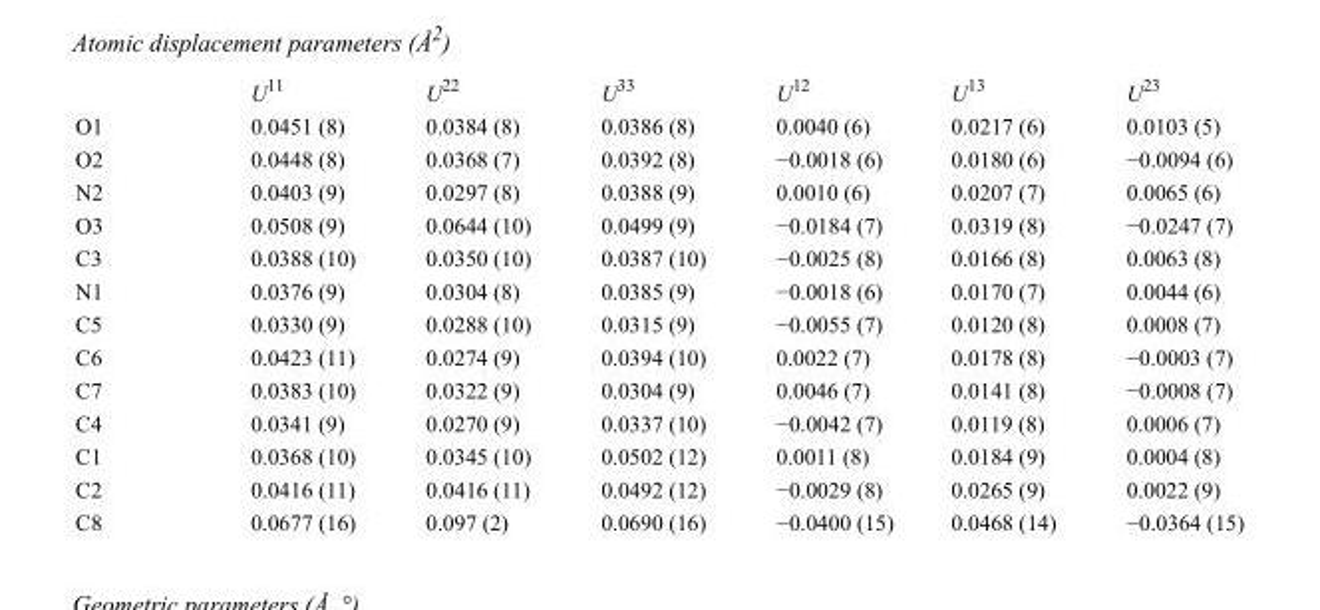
<table><thead><tr><td></td><td>U<sup>11</sup></td><td>U<sup>22</sup></td><td>U<sup>33</sup></td><td>U<sup>12</sup></td><td>U<sup>13</sup></td><td>U<sup>23</sup></td></tr></thead><tbody><tr><td>O1</td><td>0.0451 (8)</td><td>0.0384 (8)</td><td>0.0386 (8)</td><td>0.0040 (6)</td><td>0.0217 (6)</td><td>0.0103 (5)</td></tr><tr><td>O2</td><td>0.0448 (8)</td><td>0.0368 (7)</td><td>0.0392 (8)</td><td>−0.0018 (6)</td><td>0.0180 (6)</td><td>−0.0094 (6)</td></tr><tr><td>N2</td><td>0.0403 (9)</td><td>0.0297 (8)</td><td>0.0388 (9)</td><td>0.0010 (6)</td><td>0.0207 (7)</td><td>0.0065 (6)</td></tr><tr><td>O3</td><td>0.0508 (9)</td><td>0.0644 (10)</td><td>0.0499 (9)</td><td>−0.0184 (7)</td><td>0.0319 (8)</td><td>−0.0247 (7)</td></tr><tr><td>C3</td><td>0.0388 (10)</td><td>0.0350 (10)</td><td>0.0387 (10)</td><td>−0.0025 (8)</td><td>0.0166 (8)</td><td>0.0063 (8)</td></tr><tr><td>N1</td><td>0.0376 (9)</td><td>0.0304 (8)</td><td>0.0385 (9)</td><td>−0.0018 (6)</td><td>0.0170 (7)</td><td>0.0044 (6)</td></tr><tr><td>C5</td><td>0.0330 (9)</td><td>0.0288 (10)</td><td>0.0315 (9)</td><td>−0.0055 (7)</td><td>0.0120 (8)</td><td>0.0008 (7)</td></tr><tr><td>C6</td><td>0.0423 (11)</td><td>0.0274 (9)</td><td>0.0394 (10)</td><td>0.0022 (7)</td><td>0.0178 (8)</td><td>−0.0003 (7)</td></tr><tr><td>C7</td><td>0.0383 (10)</td><td>0.0322 (9)</td><td>0.0304 (9)</td><td>0.0046 (7)</td><td>0.0141 (8)</td><td>−0.0008 (7)</td></tr><tr><td>C4</td><td>0.0341 (9)</td><td>0.0270 (9)</td><td>0.0337 (10)</td><td>−0.0042 (7)</td><td>0.0119 (8)</td><td>0.0006 (7)</td></tr><tr><td>C1</td><td>0.0368 (10)</td><td>0.0345 (10)</td><td>0.0502 (12)</td><td>0.0011 (8)</td><td>0.0184 (9)</td><td>0.0004 (8)</td></tr><tr><td>C2</td><td>0.0416 (11)</td><td>0.0416 (11)</td><td>0.0492 (12)</td><td>−0.0029 (8)</td><td>0.0265 (9)</td><td>0.0022 (9)</td></tr><tr><td>C8</td><td>0.0677 (16)</td><td>0.097 (2)</td><td>0.0690 (16)</td><td>−0.0400 (15)</td><td>0.0468 (14)</td><td>−0.0364 (15)</td></tr></tbody></table>